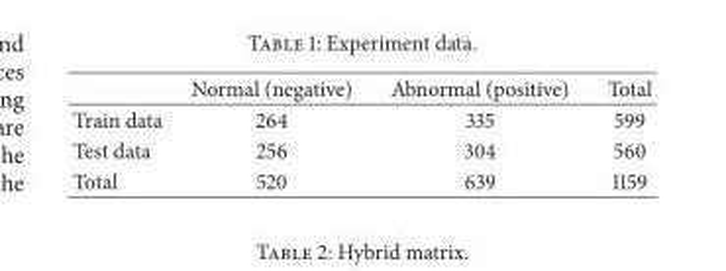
<table><thead><tr><td></td><td>Normal (negative)</td><td>Abnormal (positive)</td><td>Total</td></tr></thead><tbody><tr><td>Train data</td><td>264</td><td>335</td><td>599</td></tr><tr><td>Test data</td><td>256</td><td>304</td><td>560</td></tr><tr><td>Total</td><td>520</td><td>639</td><td>1159</td></tr></tbody></table>